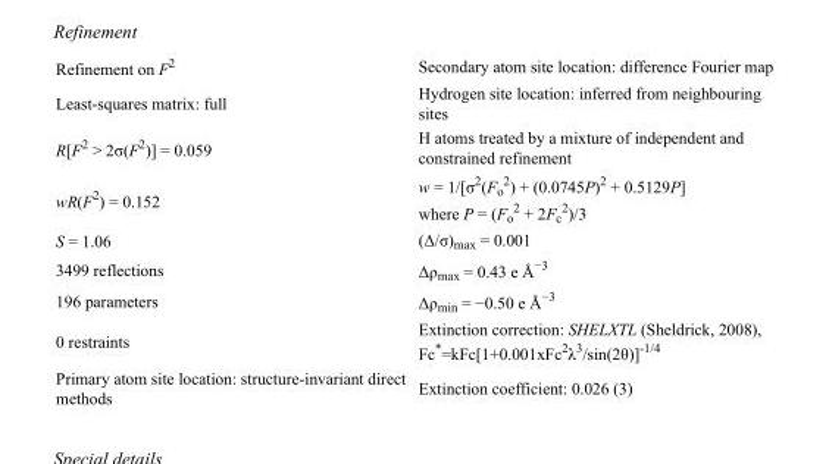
<table><tbody><tr><td>Refinement on F<sup>2</sup></td><td>Secondary atom site location: difference Fourier map</td></tr><tr><td>Least-squares matrix: full</td><td>Hydrogen site location: inferred from neighbouring sites</td></tr><tr><td>R[F<sup>2</sup> &gt; 2σ(F<sup>2</sup>)] = 0.059</td><td>H atoms treated by a mixture of independent and constrained refinement</td></tr><tr><td>wR(F<sup>2</sup>) = 0.152</td><td>w = 1/[σ<sup>2</sup>(F<sub>o</sub> <sup>2</sup>) + (0.0745P)<sup>2</sup> + 0.5129P] where P = (F<sub>o</sub> <sup>2</sup> + 2F<sub>c</sub> <sup>2</sup>)/3</td></tr><tr><td>S = 1.06</td><td>(Δ/σ)<sub>max</sub> = 0.001</td></tr><tr><td>3499 reflections</td><td>Δρ<sub>max</sub> = 0.43 e Å<sup>−3</sup></td></tr><tr><td>196 parameters</td><td>Δρ<sub>min</sub> = −0.50 e Å<sup>−3</sup></td></tr><tr><td>0 restraints</td><td>Extinction correction: SHELXTL (Sheldrick, 2008), Fc*=kFc[1+0.001xFc<sup>2</sup>λ<sup>3</sup>/sin(2θ)]<sup>-1/4</sup></td></tr><tr><td>Primary atom site location: structure-invariant direct methods</td><td>Extinction coefficient: 0.026 (3)</td></tr></tbody></table>